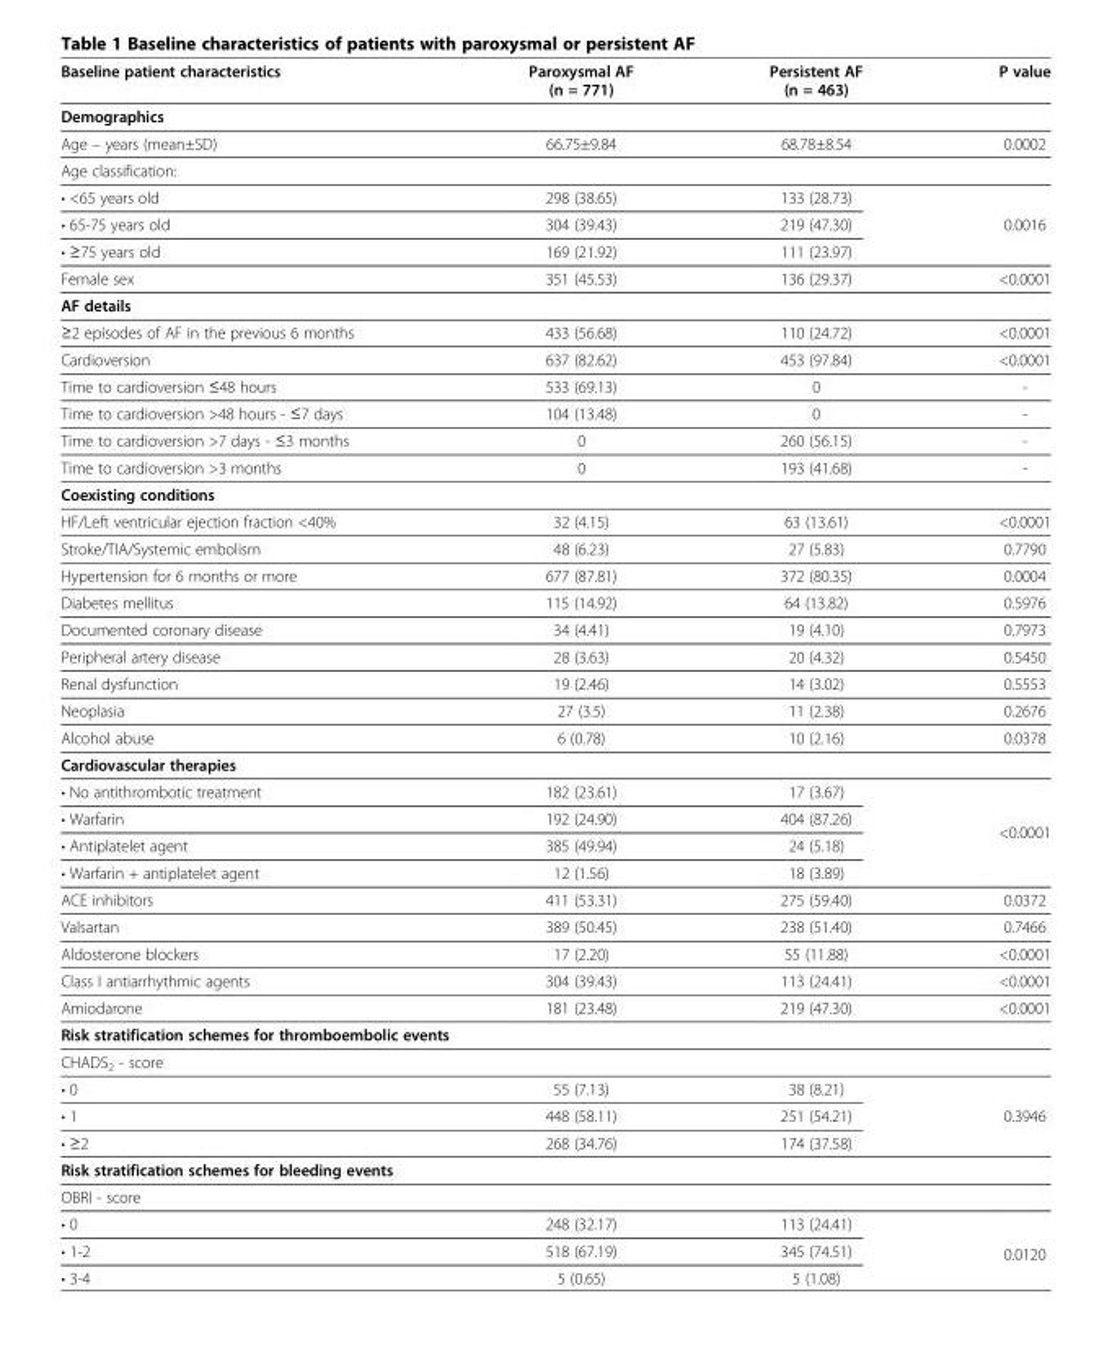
<table><thead><tr><td>Baseline patient characteristics</td><td>Paroxysmal AF (n = 771)</td><td>Persistent AF (n = 463)</td><td>P value</td></tr></thead><tbody><tr><td colspan="4">Demographics</td></tr><tr><td>Age – years (mean±SD)</td><td>66.75±9.84</td><td>68.78±8.54</td><td>0.0002</td></tr><tr><td colspan="4">Age classification:</td></tr><tr><td>• &lt;65 years old</td><td>298 (38.65)</td><td>133 (28.73)</td><td rowspan="3">0.0016</td></tr><tr><td>• 65-75 years old</td><td>304 (39.43)</td><td>219 (47.30)</td></tr><tr><td>• ≥75 years old</td><td>169 (21.92)</td><td>111 (23.97)</td></tr><tr><td>Female sex</td><td>351 (45.53)</td><td>136 (29.37)</td><td>&lt;0.0001</td></tr><tr><td colspan="4">AF details</td></tr><tr><td>≥2 episodes of AF in the previous 6 months</td><td>433 (56.68)</td><td>110 (24.72)</td><td>&lt;0.0001</td></tr><tr><td>Cardioversion</td><td>637 (82.62)</td><td>453 (97.84)</td><td>&lt;0.0001</td></tr><tr><td>Time to cardioversion ≤48 hours</td><td>533 (69.13)</td><td>0</td><td>-</td></tr><tr><td>Time to cardioversion &gt;48 hours - ≤7 days</td><td>104 (13.48)</td><td>0</td><td>-</td></tr><tr><td>Time to cardioversion &gt;7 days - ≤3 months</td><td>0</td><td>260 (56.15)</td><td>-</td></tr><tr><td>Time to cardioversion &gt;3 months</td><td>0</td><td>193 (41.68)</td><td>-</td></tr><tr><td colspan="4">Coexisting conditions</td></tr><tr><td>HF/Left ventricular ejection fraction &lt;40%</td><td>32 (4.15)</td><td>63 (13.61)</td><td>&lt;0.0001</td></tr><tr><td>Stroke/TIA/Systemic embolism</td><td>48 (6.23)</td><td>27 (5.83)</td><td>0.7790</td></tr><tr><td>Hypertension for 6 months or more</td><td>677 (87.81)</td><td>372 (80.35)</td><td>0.0004</td></tr><tr><td>Diabetes mellitus</td><td>115 (14.92)</td><td>64 (13.82)</td><td>0.5976</td></tr><tr><td>Documented coronary disease</td><td>34 (4.41)</td><td>19 (4.10)</td><td>0.7973</td></tr><tr><td>Peripheral artery disease</td><td>28 (3.63)</td><td>20 (4.32)</td><td>0.5450</td></tr><tr><td>Renal dysfunction</td><td>19 (2.46)</td><td>14 (3.02)</td><td>0.5553</td></tr><tr><td>Neoplasia</td><td>27 (3.5)</td><td>11 (2.38)</td><td>0.2676</td></tr><tr><td>Alcohol abuse</td><td>6 (0.78)</td><td>10 (2.16)</td><td>0.0378</td></tr><tr><td colspan="4">Cardiovascular therapies</td></tr><tr><td>• No antithrombotic treatment</td><td>182 (23.61)</td><td>17 (3.67)</td><td rowspan="4">&lt;0.0001</td></tr><tr><td>• Warfarin</td><td>192 (24.90)</td><td>404 (87.26)</td></tr><tr><td>• Antiplatelet agent</td><td>385 (49.94)</td><td>24 (5.18)</td></tr><tr><td>• Warfarin + antiplatelet agent</td><td>12 (1.56)</td><td>18 (3.89)</td></tr><tr><td>ACE inhibitors</td><td>411 (53.31)</td><td>275 (59.40)</td><td>0.0372</td></tr><tr><td>Valsartan</td><td>389 (50.45)</td><td>238 (51.40)</td><td>0.7466</td></tr><tr><td>Aldosterone blockers</td><td>17 (2.20)</td><td>55 (11.88)</td><td>&lt;0.0001</td></tr><tr><td>Class I antiarrhythmic agents</td><td>304 (39.43)</td><td>113 (24.41)</td><td>&lt;0.0001</td></tr><tr><td>Amiodarone</td><td>181 (23.48)</td><td>219 (47.30)</td><td>&lt;0.0001</td></tr><tr><td colspan="4">Risk stratification schemes for thromboembolic events</td></tr><tr><td colspan="4">CHADS<sub>2</sub> - score</td></tr><tr><td>• 0</td><td>55 (7.13)</td><td>38 (8.21)</td><td rowspan="3">0.3946</td></tr><tr><td>• 1</td><td>448 (58.11)</td><td>251 (54.21)</td></tr><tr><td>• ≥2</td><td>268 (34.76)</td><td>174 (37.58)</td></tr><tr><td colspan="4">Risk stratification schemes for bleeding events</td></tr><tr><td colspan="4">OBRI - score</td></tr><tr><td>• 0</td><td>248 (32.17)</td><td>113 (24.41)</td><td rowspan="3">0.0120</td></tr><tr><td>• 1-2</td><td>518 (67.19)</td><td>345 (74.51)</td></tr><tr><td>• 3-4</td><td>5 (0.65)</td><td>5 (1.08)</td></tr></tbody></table>